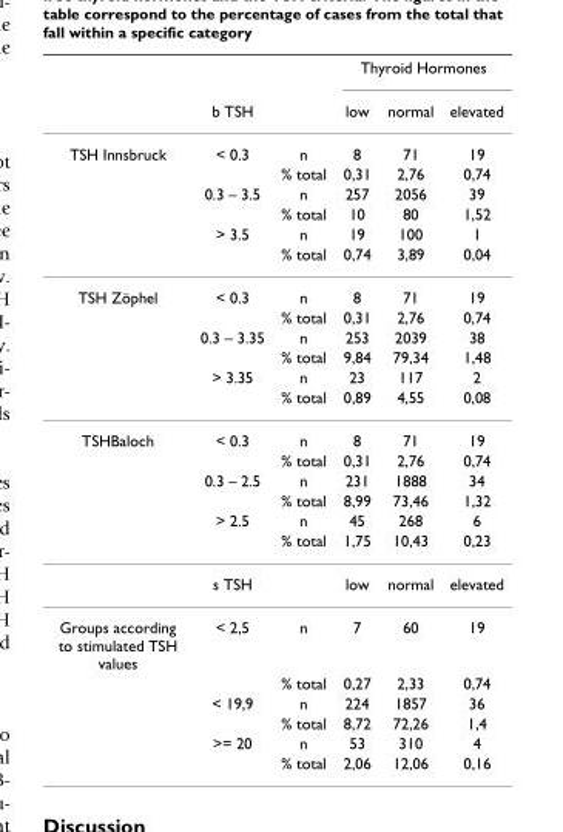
<table><thead><tr><td rowspan="2"></td><td rowspan="2">b TSH</td><td rowspan="2"></td><td colspan="3">Thyroid Hormones</td></tr><tr><td>low</td><td>normal</td><td>elevated</td></tr></thead><tbody><tr><td rowspan="6">TSH Innsbruck</td><td>&lt; 0.3</td><td>n</td><td>8</td><td>71</td><td>19</td></tr><tr><td></td><td>% total</td><td>0,31</td><td>2,76</td><td>0,74</td></tr><tr><td>0.3 – 3.5</td><td>n</td><td>257</td><td>2056</td><td>39</td></tr><tr><td></td><td>% total</td><td>10</td><td>80</td><td>1,52</td></tr><tr><td>&gt; 3.5</td><td>n</td><td>19</td><td>100</td><td>1</td></tr><tr><td></td><td>% total</td><td>0,74</td><td>3,89</td><td>0,04</td></tr><tr><td rowspan="6">TSH Zöphel</td><td>&lt; 0.3</td><td>n</td><td>8</td><td>71</td><td>19</td></tr><tr><td></td><td>% total</td><td>0,31</td><td>2,76</td><td>0,74</td></tr><tr><td>0.3 – 3.35</td><td>n</td><td>253</td><td>2039</td><td>38</td></tr><tr><td></td><td>% total</td><td>9,84</td><td>79,34</td><td>1,48</td></tr><tr><td>&gt; 3.35</td><td>n</td><td>23</td><td>117</td><td>2</td></tr><tr><td></td><td>% total</td><td>0,89</td><td>4,55</td><td>0,08</td></tr><tr><td rowspan="7">TSHBaloch</td><td>&lt; 0.3</td><td>n</td><td>8</td><td>71</td><td>19</td></tr><tr><td></td><td>% total</td><td>0,31</td><td>2,76</td><td>0,74</td></tr><tr><td>0.3 – 2.5</td><td>n</td><td>231</td><td>1888</td><td>34</td></tr><tr><td></td><td>% total</td><td>8,99</td><td>73,46</td><td>1,32</td></tr><tr><td>&gt; 2.5</td><td>n</td><td>45</td><td>268</td><td>6</td></tr><tr><td></td><td>% total</td><td>1,75</td><td>10,43</td><td>0,23</td></tr><tr><td>s TSH</td><td></td><td>low</td><td>normal</td><td>elevated</td></tr><tr><td rowspan="6">Groups according to stimulated TSH values</td><td>&lt; 2,5</td><td>n</td><td>7</td><td>60</td><td>19</td></tr><tr><td></td><td>% total</td><td>0,27</td><td>2,33</td><td>0,74</td></tr><tr><td>&lt; 19,9</td><td>n</td><td>224</td><td>1857</td><td>36</td></tr><tr><td></td><td>% total</td><td>8,72</td><td>72,26</td><td>1,4</td></tr><tr><td>&gt;= 20</td><td>n</td><td>53</td><td>310</td><td>4</td></tr><tr><td></td><td>% total</td><td>2,06</td><td>12,06</td><td>0,16</td></tr></tbody></table>